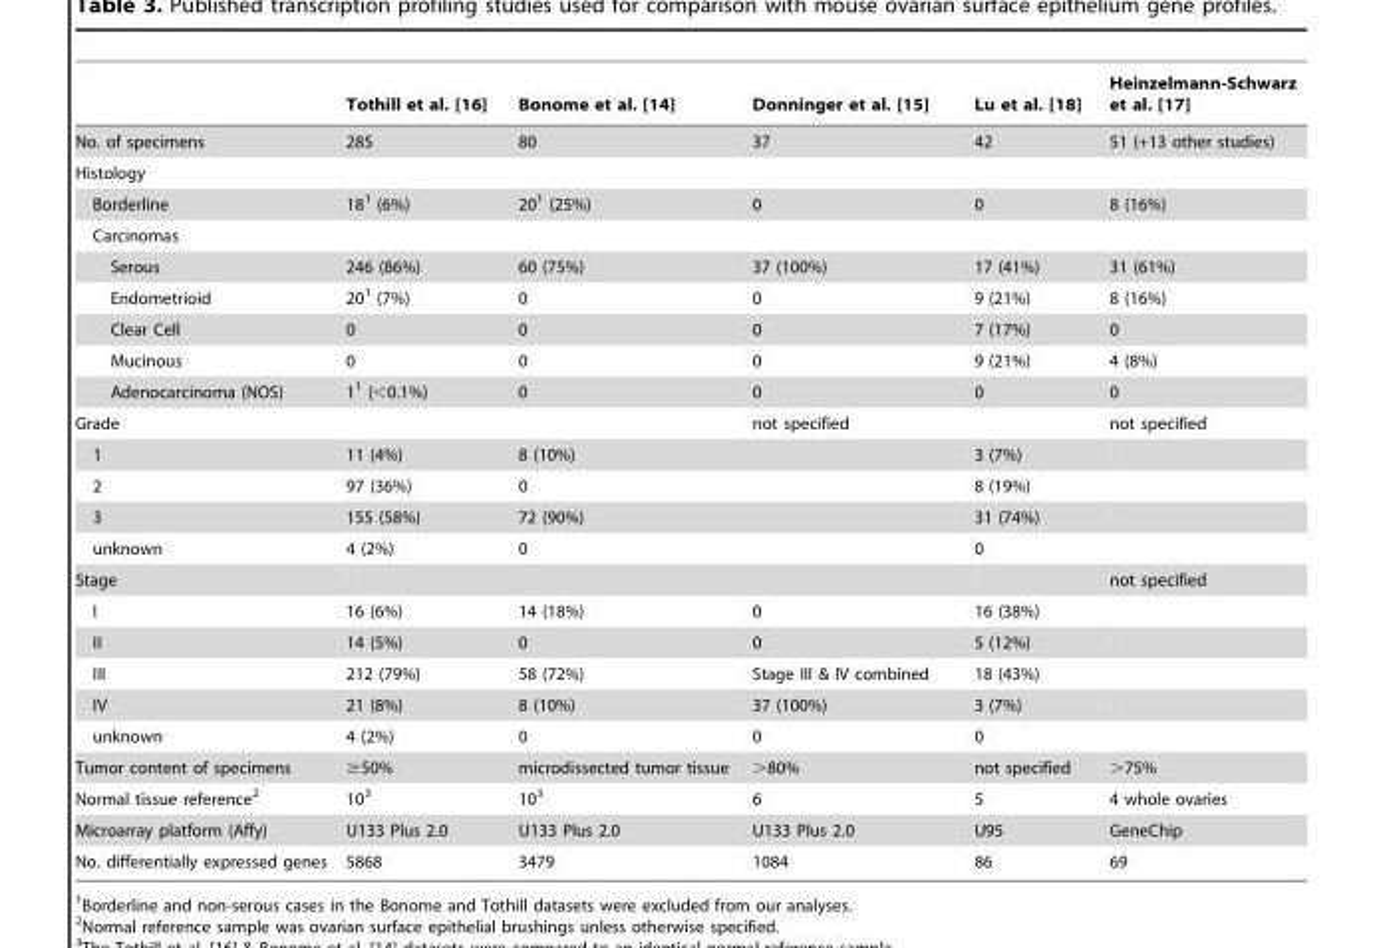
<table><thead><tr><td></td><td>Tothill et al. [16]</td><td>Bonome et al. [14]</td><td>Donninger et al. [15]</td><td>Lu et al. [18]</td><td>Heinzelmann-Schwarz et al. [17]</td></tr></thead><tbody><tr><td>No. of specimens</td><td>285</td><td>80</td><td>37</td><td>42</td><td>51 (+13 other studies)</td></tr><tr><td colspan="6">Histology</td></tr><tr><td>Borderline</td><td>18<sup>1</sup> (6%)</td><td>20<sup>1</sup> (25%)</td><td>0</td><td>0</td><td>8 (16%)</td></tr><tr><td colspan="6">Carcinomas</td></tr><tr><td>Serous</td><td>246 (86%)</td><td>60 (75%)</td><td>37 (100%)</td><td>17 (41%)</td><td>31 (61%)</td></tr><tr><td>Endometrioid</td><td>20<sup>1</sup> (7%)</td><td>0</td><td>0</td><td>9 (21%)</td><td>8 (16%)</td></tr><tr><td>Clear Cell</td><td>0</td><td>0</td><td>0</td><td>7 (17%)</td><td>0</td></tr><tr><td>Mucinous</td><td>0</td><td>0</td><td>0</td><td>9 (21%)</td><td>4 (8%)</td></tr><tr><td>Adenocarcinoma (NOS)</td><td>1<sup>1</sup> (&lt;0.1%)</td><td>0</td><td>0</td><td>0</td><td>0</td></tr><tr><td>Grade</td><td></td><td></td><td>not specified</td><td></td><td>not specified</td></tr><tr><td>1</td><td>11 (4%)</td><td>8 (10%)</td><td></td><td>3 (7%)</td><td></td></tr><tr><td>2</td><td>97 (36%)</td><td>0</td><td></td><td>8 (19%)</td><td></td></tr><tr><td>3</td><td>155 (58%)</td><td>72 (90%)</td><td></td><td>31 (74%)</td><td></td></tr><tr><td>unknown</td><td>4 (2%)</td><td>0</td><td></td><td>0</td><td></td></tr><tr><td>Stage</td><td></td><td></td><td></td><td></td><td>not specified</td></tr><tr><td>I</td><td>16 (6%)</td><td>14 (18%)</td><td>0</td><td>16 (38%)</td><td></td></tr><tr><td>II</td><td>14 (5%)</td><td>0</td><td>0</td><td>5 (12%)</td><td></td></tr><tr><td>III</td><td>212 (79%)</td><td>58 (72%)</td><td>Stage III &amp; IV combined</td><td>18 (43%)</td><td></td></tr><tr><td>IV</td><td>21 (8%)</td><td>8 (10%)</td><td>37 (100%)</td><td>3 (7%)</td><td></td></tr><tr><td>unknown</td><td>4 (2%)</td><td>0</td><td>0</td><td>0</td><td></td></tr><tr><td>Tumor content of specimens</td><td>≥50%</td><td>microdissected tumor tissue</td><td>&gt;80%</td><td>not specified</td><td>&gt;75%</td></tr><tr><td>Normal tissue reference<sup>2</sup></td><td>10<sup>3</sup></td><td>10<sup>3</sup></td><td>6</td><td>5</td><td>4 whole ovaries</td></tr><tr><td>Microarray platform (Affy)</td><td>U133 Plus 2.0</td><td>U133 Plus 2.0</td><td>U133 Plus 2.0</td><td>U95</td><td>GeneChip</td></tr><tr><td>No. differentially expressed genes</td><td>5868</td><td>3479</td><td>1084</td><td>86</td><td>69</td></tr></tbody></table>